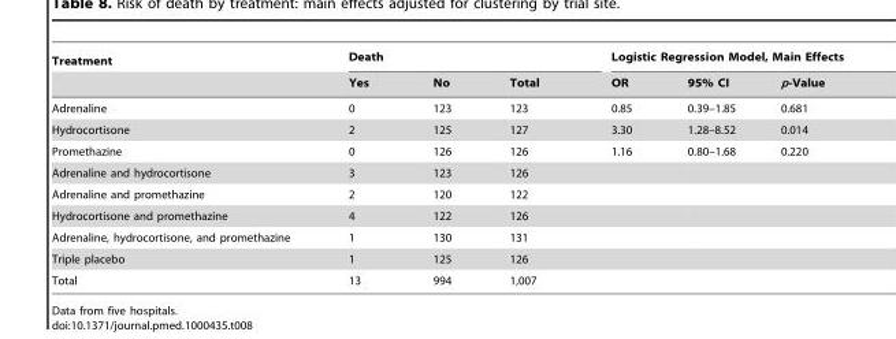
<table><thead><tr><td rowspan="2">Treatment</td><td colspan="3">Death</td><td colspan="3">Logistic Regression Model, Main Effects</td></tr><tr><td>Yes</td><td>No</td><td>Total</td><td>OR</td><td>95% CI</td><td>p-Value</td></tr></thead><tbody><tr><td>Adrenaline</td><td>0</td><td>123</td><td>123</td><td>0.85</td><td>0.39–1.85</td><td>0.681</td></tr><tr><td>Hydrocortisone</td><td>2</td><td>125</td><td>127</td><td>3.30</td><td>1.28–8.52</td><td>0.014</td></tr><tr><td>Promethazine</td><td>0</td><td>126</td><td>126</td><td>1.16</td><td>0.80–1.68</td><td>0.220</td></tr><tr><td>Adrenaline and hydrocortisone</td><td>3</td><td>123</td><td>126</td><td></td><td></td><td></td></tr><tr><td>Adrenaline and promethazine</td><td>2</td><td>120</td><td>122</td><td></td><td></td><td></td></tr><tr><td>Hydrocortisone and promethazine</td><td>4</td><td>122</td><td>126</td><td></td><td></td><td></td></tr><tr><td>Adrenaline, hydrocortisone, and promethazine</td><td>1</td><td>130</td><td>131</td><td></td><td></td><td></td></tr><tr><td>Triple placebo</td><td>1</td><td>125</td><td>126</td><td></td><td></td><td></td></tr><tr><td>Total</td><td>13</td><td>994</td><td>1,007</td><td></td><td></td><td></td></tr></tbody></table>